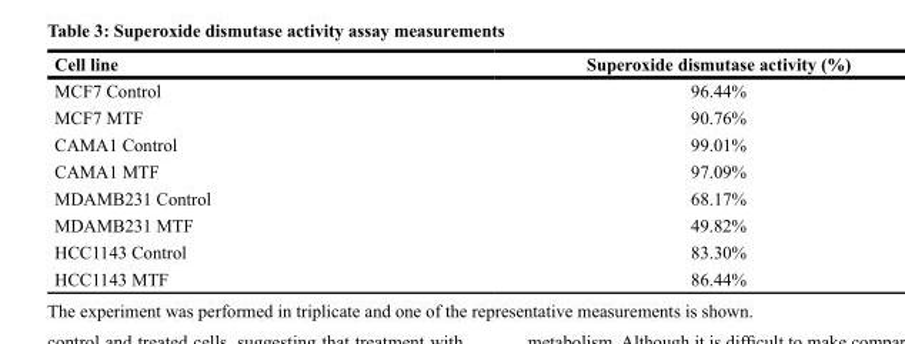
<table><thead><tr><td>Cell line</td><td>Superoxide dismutase activity (%)</td></tr></thead><tbody><tr><td>MCF7 Control</td><td>96.44%</td></tr><tr><td>MCF7 MTF</td><td>90.76%</td></tr><tr><td>CAMA1 Control</td><td>99.01%</td></tr><tr><td>CAMA1 MTF</td><td>97.09%</td></tr><tr><td>MDAMB231 Control</td><td>68.17%</td></tr><tr><td>MDAMB231 MTF</td><td>49.82%</td></tr><tr><td>HCC1143 Control</td><td>83.30%</td></tr><tr><td>HCC1143 MTF</td><td>86.44%</td></tr></tbody></table>